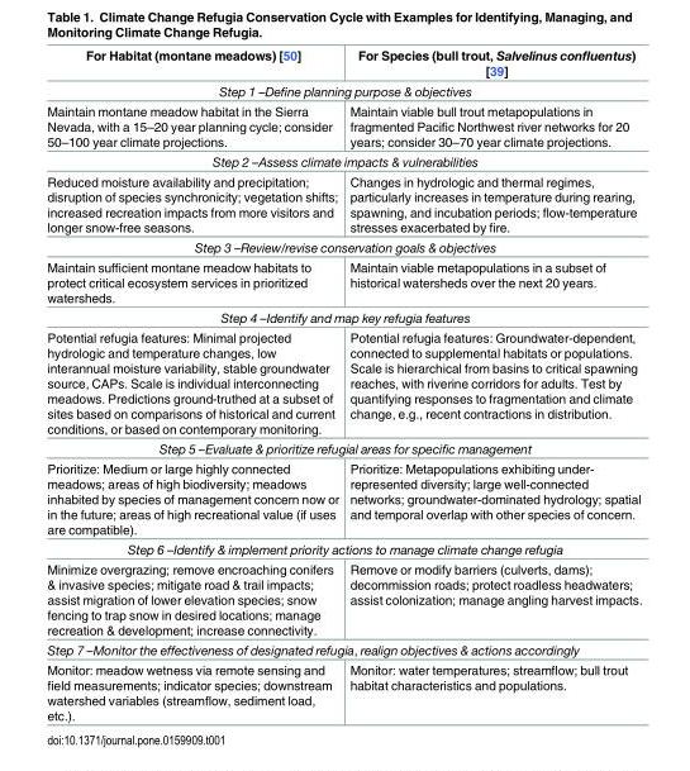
<table><thead><tr><td>For Habitat (montane meadows) [50]</td><td>For Species (bull trout, Salvelinus confluentus) [39]</td></tr></thead><tbody><tr><td colspan="2">Step 1 –Define planning purpose &amp; objectives</td></tr><tr><td>Maintain montane meadow habitat in the Sierra Nevada, with a 15–20 year planning cycle; consider 50–100 year climate projections.</td><td>Maintain viable bull trout metapopulations in fragmented Pacific Northwest river networks for 20 years; consider 30–70 year climate projections.</td></tr><tr><td colspan="2">Step 2 –Assess climate impacts &amp; vulnerabilities</td></tr><tr><td>Reduced moisture availability and precipitation; disruption of species synchronicity; vegetation shifts; increased recreation impacts from more visitors and longer snow-free seasons.</td><td>Changes in hydrologic and thermal regimes, particularly increases in temperature during rearing, spawning, and incubation periods; flow-temperature stresses exacerbated by fire.</td></tr><tr><td colspan="2">Step 3 –Review/revise conservation goals &amp; objectives</td></tr><tr><td>Maintain sufficient montane meadow habitats to protect critical ecosystem services in prioritized watersheds.</td><td>Maintain viable metapopulations in a subset of historical watersheds over the next 20 years.</td></tr><tr><td colspan="2">Step 4 –Identify and map key refugia features</td></tr><tr><td>Potential refugia features: Minimal projected hydrologic and temperature changes, low interannual moisture variability, stable groundwater source, CAPs. Scale is individual interconnecting meadows. Predictions ground-truthed at a subset of sites based on comparisons of historical and current conditions, or based on contemporary monitoring.</td><td>Potential refugia features: Groundwater-dependent, connected to supplemental habitats or populations. Scale is hierarchical from basins to critical spawning reaches, with riverine corridors for adults. Test by quantifying responses to fragmentation and climate change, e.g., recent contractions in distribution.</td></tr><tr><td colspan="2">Step 5 –Evaluate &amp; prioritize refugial areas for specific management</td></tr><tr><td>Prioritize: Medium or large highly connected meadows; areas of high biodiversity; meadows inhabited by species of management concern now or in the future; areas of high recreational value (if uses are compatible).</td><td>Prioritize: Metapopulations exhibiting under- represented diversity; large well-connected networks; groundwater-dominated hydrology; spatial and temporal overlap with other species of concern.</td></tr><tr><td colspan="2">Step 6 –Identify &amp; implement priority actions to manage climate change refugia</td></tr><tr><td>Minimize overgrazing; remove encroaching conifers &amp; invasive species; mitigate road &amp; trail impacts; assist migration of lower elevation species; snow fencing to trap snow in desired locations; manage recreation &amp; development; increase connectivity.</td><td>Remove or modify barriers (culverts, dams); decommission roads; protect roadless headwaters; assist colonization; manage angling harvest impacts.</td></tr><tr><td colspan="2">Step 7 –Monitor the effectiveness of designated refugia, realign objectives &amp; actions accordingly</td></tr><tr><td>Monitor: meadow wetness via remote sensing and field measurements; indicator species; downstream watershed variables (streamflow, sediment load, etc.).</td><td>Monitor: water temperatures; streamflow; bull trout habitat characteristics and populations.</td></tr></tbody></table>